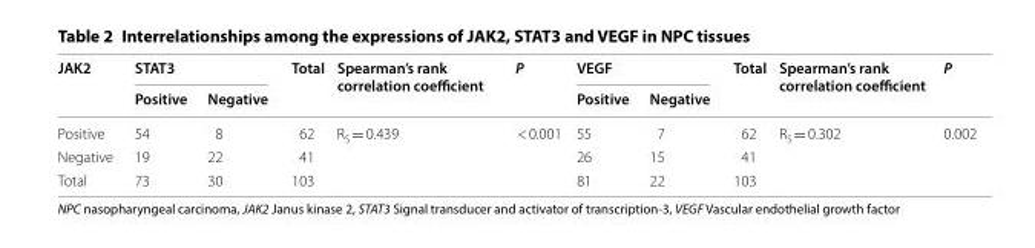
<table><thead><tr><td rowspan="2">JAK2</td><td colspan="2">STAT3</td><td rowspan="2">Total</td><td rowspan="2">Spearman’s rank correlation coefficient</td><td rowspan="2">P</td><td colspan="2">VEGF</td><td rowspan="2">Total</td><td rowspan="2">Spearman’s rank correlation coefficient</td><td rowspan="2">P</td></tr><tr><td>Positive</td><td>Negative</td><td>Positive</td><td>Negative</td></tr></thead><tbody><tr><td>Positive</td><td>54</td><td>8</td><td>62</td><td rowspan="3">R<sub>S</sub> = 0.439</td><td rowspan="3">&lt; 0.001</td><td>55</td><td>7</td><td>62</td><td rowspan="3">R<sub>S</sub> = 0.302</td><td rowspan="3">0.002</td></tr><tr><td>Negative</td><td>19</td><td>22</td><td>41</td><td>26</td><td>15</td><td>41</td></tr><tr><td>Total</td><td>73</td><td>30</td><td>103</td><td>81</td><td>22</td><td>103</td></tr></tbody></table>